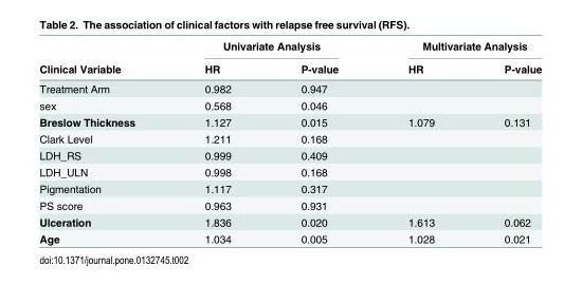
<table><thead><tr><td rowspan="2">Clinical Variable</td><td colspan="2">Univariate Analysis</td><td colspan="2">Multivariate Analysis</td></tr><tr><td>HR</td><td>P-value</td><td>HR</td><td>P-value</td></tr></thead><tbody><tr><td>Treatment Arm</td><td>0.982</td><td>0.947</td><td></td><td></td></tr><tr><td>sex</td><td>0.568</td><td>0.046</td><td></td><td></td></tr><tr><td>Breslow Thickness</td><td>1.127</td><td>0.015</td><td>1.079</td><td>0.131</td></tr><tr><td>Clark Level</td><td>1.211</td><td>0.168</td><td></td><td></td></tr><tr><td>LDH_RS</td><td>0.999</td><td>0.409</td><td></td><td></td></tr><tr><td>LDH_ULN</td><td>0.998</td><td>0.168</td><td></td><td></td></tr><tr><td>Pigmentation</td><td>1.117</td><td>0.317</td><td></td><td></td></tr><tr><td>PS score</td><td>0.963</td><td>0.931</td><td></td><td></td></tr><tr><td>Ulceration</td><td>1.836</td><td>0.020</td><td>1.613</td><td>0.062</td></tr><tr><td>Age</td><td>1.034</td><td>0.005</td><td>1.028</td><td>0.021</td></tr></tbody></table>